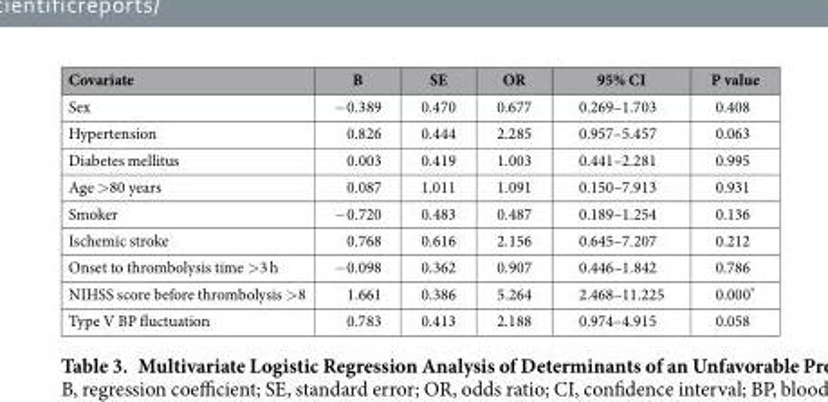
<table><thead><tr><td>Covariate</td><td>B</td><td>SE</td><td>OR</td><td>95% CI</td><td>P value</td></tr></thead><tbody><tr><td>Sex</td><td>− 0.389</td><td>0.470</td><td>0.677</td><td>0.269–1.703</td><td>0.408</td></tr><tr><td>Hypertension</td><td>0.826</td><td>0.444</td><td>2.285</td><td>0.957–5.457</td><td>0.063</td></tr><tr><td>Diabetes mellitus</td><td>0.003</td><td>0.419</td><td>1.003</td><td>0.441–2.281</td><td>0.995</td></tr><tr><td>Age &gt; 80 years</td><td>0.087</td><td>1.011</td><td>1.091</td><td>0.150–7.913</td><td>0.931</td></tr><tr><td>Smoker</td><td>− 0.720</td><td>0.483</td><td>0.487</td><td>0.189–1.254</td><td>0.136</td></tr><tr><td>Ischemic stroke</td><td>0.768</td><td>0.616</td><td>2.156</td><td>0.645–7.207</td><td>0.212</td></tr><tr><td>Onset to thrombolysis time &gt; 3 h</td><td>− 0.098</td><td>0.362</td><td>0.907</td><td>0.446–1.842</td><td>0.786</td></tr><tr><td>NIHSS score before thrombolysis &gt; 8</td><td>1.661</td><td>0.386</td><td>5.264</td><td>2.468–11.225</td><td>0.000*</td></tr><tr><td>Type V BP fluctuation</td><td>0.783</td><td>0.413</td><td>2.188</td><td>0.974–4.915</td><td>0.058</td></tr></tbody></table>